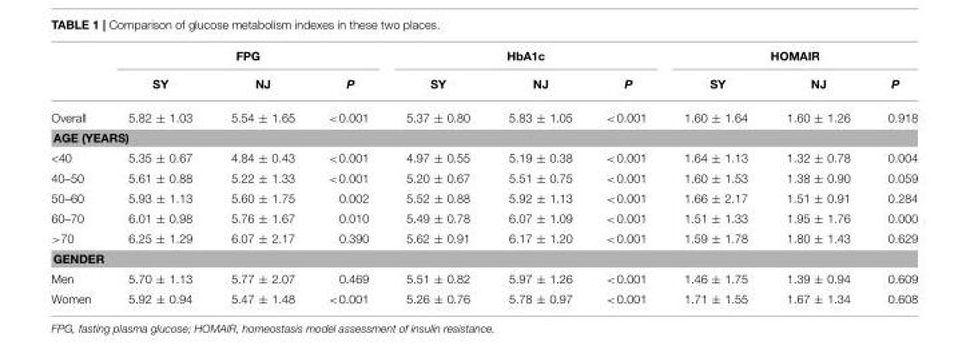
<table><thead><tr><td rowspan="2"></td><td colspan="3">FPG</td><td colspan="3">HbA1c</td><td colspan="3">HOMAIR</td></tr><tr><td>SY</td><td>NJ</td><td>P</td><td>SY</td><td>NJ</td><td>P</td><td>SY</td><td>NJ</td><td>P</td></tr></thead><tbody><tr><td>Overall</td><td>5.82 ± 1.03</td><td>5.54 ± 1.65</td><td>&lt;0.001</td><td>5.37 ± 0.80</td><td>5.83 ± 1.05</td><td>&lt;0.001</td><td>1.60 ± 1.64</td><td>1.60 ± 1.26</td><td>0.918</td></tr><tr><td colspan="10">AGE (YEARS)</td></tr><tr><td>&lt;40</td><td>5.35 ± 0.67</td><td>4.84 ± 0.43</td><td>&lt;0.001</td><td>4.97 ± 0.55</td><td>5.19 ± 0.38</td><td>&lt;0.001</td><td>1.64 ± 1.13</td><td>1.32 ± 0.78</td><td>0.004</td></tr><tr><td>40–50</td><td>5.61 ± 0.88</td><td>5.22 ± 1.33</td><td>&lt;0.001</td><td>5.20 ± 0.67</td><td>5.51 ± 0.75</td><td>&lt;0.001</td><td>1.60 ± 1.53</td><td>1.38 ± 0.90</td><td>0.059</td></tr><tr><td>50–60</td><td>5.93 ± 1.13</td><td>5.60 ± 1.75</td><td>0.002</td><td>5.52 ± 0.88</td><td>5.92 ± 1.13</td><td>&lt;0.001</td><td>1.66 ± 2.17</td><td>1.51 ± 0.91</td><td>0.284</td></tr><tr><td>60–70</td><td>6.01 ± 0.98</td><td>5.76 ± 1.67</td><td>0.010</td><td>5.49 ± 0.78</td><td>6.07 ± 1.09</td><td>&lt;0.001</td><td>1.51 ± 1.33</td><td>1.95 ± 1.76</td><td>0.000</td></tr><tr><td>&gt;70</td><td>6.25 ± 1.29</td><td>6.07 ± 2.17</td><td>0.390</td><td>5.62 ± 0.91</td><td>6.17 ± 1.20</td><td>&lt;0.001</td><td>1.59 ± 1.78</td><td>1.80 ± 1.43</td><td>0.629</td></tr><tr><td colspan="10">GENDER</td></tr><tr><td>Men</td><td>5.70 ± 1.13</td><td>5.77 ± 2.07</td><td>0.469</td><td>5.51 ± 0.82</td><td>5.97 ± 1.26</td><td>&lt;0.001</td><td>1.46 ± 1.75</td><td>1.39 ± 0.94</td><td>0.609</td></tr><tr><td>Women</td><td>5.92 ± 0.94</td><td>5.47 ± 1.48</td><td>&lt;0.001</td><td>5.26 ± 0.76</td><td>5.78 ± 0.97</td><td>&lt;0.001</td><td>1.71 ± 1.55</td><td>1.67 ± 1.34</td><td>0.608</td></tr></tbody></table>